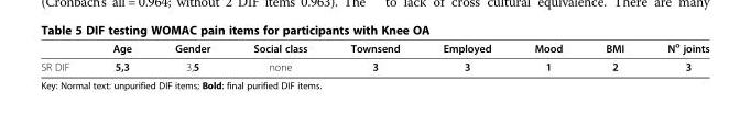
<table><thead><tr><td></td><td>Age</td><td>Gender</td><td>Social class</td><td>Townsend</td><td>Employed</td><td>Mood</td><td>BMI</td><td>N<sup>o</sup> joints</td></tr></thead><tbody><tr><td>SR DIF</td><td>5,3</td><td>3,5</td><td>none</td><td>3</td><td>3</td><td>1</td><td>2</td><td>3</td></tr></tbody></table>